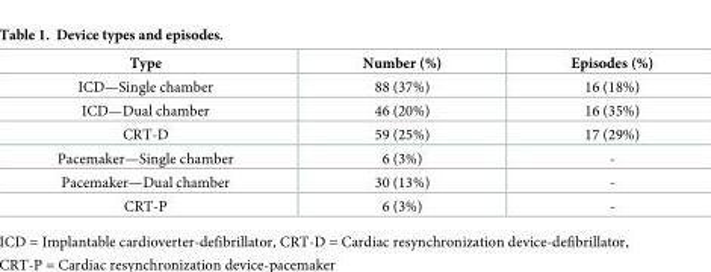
<table><thead><tr><td>Type</td><td>Number (%)</td><td>Episodes (%)</td></tr></thead><tbody><tr><td>ICD—Single chamber</td><td>88 (37%)</td><td>16 (18%)</td></tr><tr><td>ICD—Dual chamber</td><td>46 (20%)</td><td>16 (35%)</td></tr><tr><td>CRT-D</td><td>59 (25%)</td><td>17 (29%)</td></tr><tr><td>Pacemaker—Single chamber</td><td>6 (3%)</td><td>-</td></tr><tr><td>Pacemaker—Dual chamber</td><td>30 (13%)</td><td>-</td></tr><tr><td>CRT-P</td><td>6 (3%)</td><td>-</td></tr></tbody></table>